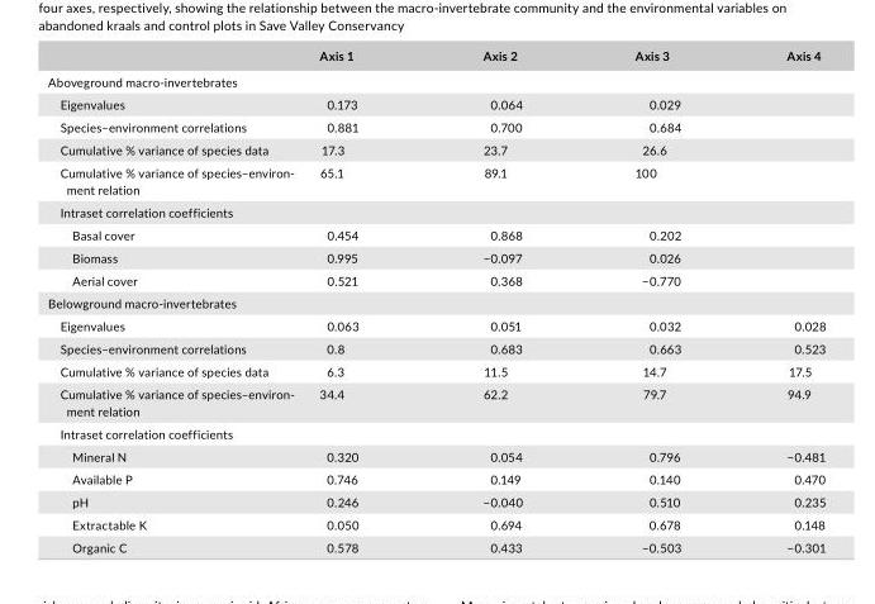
<table><thead><tr><td></td><td>Axis 1</td><td>Axis 2</td><td>Axis 3</td><td>Axis 4</td></tr></thead><tbody><tr><td colspan="5">Aboveground macro- invertebrates</td></tr><tr><td>Eigenvalues</td><td>0.173</td><td>0.064</td><td>0.029</td><td></td></tr><tr><td>Species–environment correlations</td><td>0.881</td><td>0.700</td><td>0.684</td><td></td></tr><tr><td>Cumulative % variance of species data</td><td>17.3</td><td>23.7</td><td>26.6</td><td></td></tr><tr><td>Cumulative % variance of species–environ- ment relation</td><td>65.1</td><td>89.1</td><td>100</td><td></td></tr><tr><td colspan="5">Intraset correlation coefficients</td></tr><tr><td>Basal cover</td><td>0.454</td><td>0.868</td><td>0.202</td><td></td></tr><tr><td>Biomass</td><td>0.995</td><td>−0.097</td><td>0.026</td><td></td></tr><tr><td>Aerial cover</td><td>0.521</td><td>0.368</td><td>−0.770</td><td></td></tr><tr><td colspan="5">Belowground macro- invertebrates</td></tr><tr><td>Eigenvalues</td><td>0.063</td><td>0.051</td><td>0.032</td><td>0.028</td></tr><tr><td>Species–environment correlations</td><td>0.8</td><td>0.683</td><td>0.663</td><td>0.523</td></tr><tr><td>Cumulative % variance of species data</td><td>6.3</td><td>11.5</td><td>14.7</td><td>17.5</td></tr><tr><td>Cumulative % variance of species–environ- ment relation</td><td>34.4</td><td>62.2</td><td>79.7</td><td>94.9</td></tr><tr><td colspan="5">Intraset correlation coefficients</td></tr><tr><td>Mineral N</td><td>0.320</td><td>0.054</td><td>0.796</td><td>−0.481</td></tr><tr><td>Available P</td><td>0.746</td><td>0.149</td><td>0.140</td><td>0.470</td></tr><tr><td>pH</td><td>0.246</td><td>−0.040</td><td>0.510</td><td>0.235</td></tr><tr><td>Extractable K</td><td>0.050</td><td>0.694</td><td>0.678</td><td>0.148</td></tr><tr><td>Organic C</td><td>0.578</td><td>0.433</td><td>−0.503</td><td>−0.301</td></tr></tbody></table>